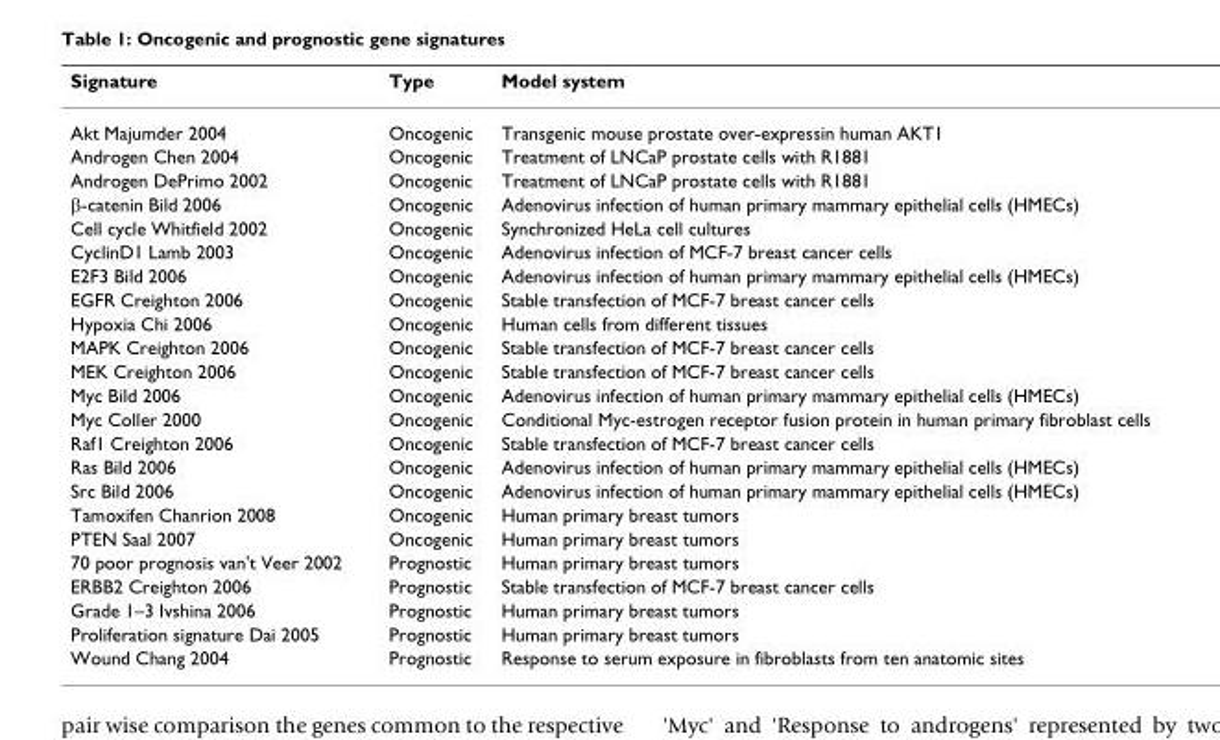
<table><thead><tr><td>Signature</td><td>Type</td><td>Model system</td></tr></thead><tbody><tr><td>Akt Majumder 2004</td><td>Oncogenic</td><td>Transgenic mouse prostate over-expressin human AKT1</td></tr><tr><td>Androgen Chen 2004</td><td>Oncogenic</td><td>Treatment of LNCaP prostate cells with R1881</td></tr><tr><td>Androgen DePrimo 2002</td><td>Oncogenic</td><td>Treatment of LNCaP prostate cells with R1881</td></tr><tr><td>β-catenin Bild 2006</td><td>Oncogenic</td><td>Adenovirus infection of human primary mammary epithelial cells (HMECs)</td></tr><tr><td>Cell cycle Whitfield 2002</td><td>Oncogenic</td><td>Synchronized HeLa cell cultures</td></tr><tr><td>CyclinD1 Lamb 2003</td><td>Oncogenic</td><td>Adenovirus infection of MCF-7 breast cancer cells</td></tr><tr><td>E2F3 Bild 2006</td><td>Oncogenic</td><td>Adenovirus infection of human primary mammary epithelial cells (HMECs)</td></tr><tr><td>EGFR Creighton 2006</td><td>Oncogenic</td><td>Stable transfection of MCF-7 breast cancer cells</td></tr><tr><td>Hypoxia Chi 2006</td><td>Oncogenic</td><td>Human cells from different tissues</td></tr><tr><td>MAPK Creighton 2006</td><td>Oncogenic</td><td>Stable transfection of MCF-7 breast cancer cells</td></tr><tr><td>MEK Creighton 2006</td><td>Oncogenic</td><td>Stable transfection of MCF-7 breast cancer cells</td></tr><tr><td>Myc Bild 2006</td><td>Oncogenic</td><td>Adenovirus infection of human primary mammary epithelial cells (HMECs)</td></tr><tr><td>Myc Coller 2000</td><td>Oncogenic</td><td>Conditional Myc-estrogen receptor fusion protein in human primary fibroblast cells</td></tr><tr><td>Raf1 Creighton 2006</td><td>Oncogenic</td><td>Stable transfection of MCF-7 breast cancer cells</td></tr><tr><td>Ras Bild 2006</td><td>Oncogenic</td><td>Adenovirus infection of human primary mammary epithelial cells (HMECs)</td></tr><tr><td>Src Bild 2006</td><td>Oncogenic</td><td>Adenovirus infection of human primary mammary epithelial cells (HMECs)</td></tr><tr><td>Tamoxifen Chanrion 2008</td><td>Oncogenic</td><td>Human primary breast tumors</td></tr><tr><td>PTEN Saal 2007</td><td>Oncogenic</td><td>Human primary breast tumors</td></tr><tr><td>70 poor prognosis van&#x27;t Veer 2002</td><td>Prognostic</td><td>Human primary breast tumors</td></tr><tr><td>ERBB2 Creighton 2006</td><td>Prognostic</td><td>Stable transfection of MCF-7 breast cancer cells</td></tr><tr><td>Grade 1–3 Ivshina 2006</td><td>Prognostic</td><td>Human primary breast tumors</td></tr><tr><td>Proliferation signature Dai 2005</td><td>Prognostic</td><td>Human primary breast tumors</td></tr><tr><td>Wound Chang 2004</td><td>Prognostic</td><td>Response to serum exposure in fibroblasts from ten anatomic sites</td></tr></tbody></table>